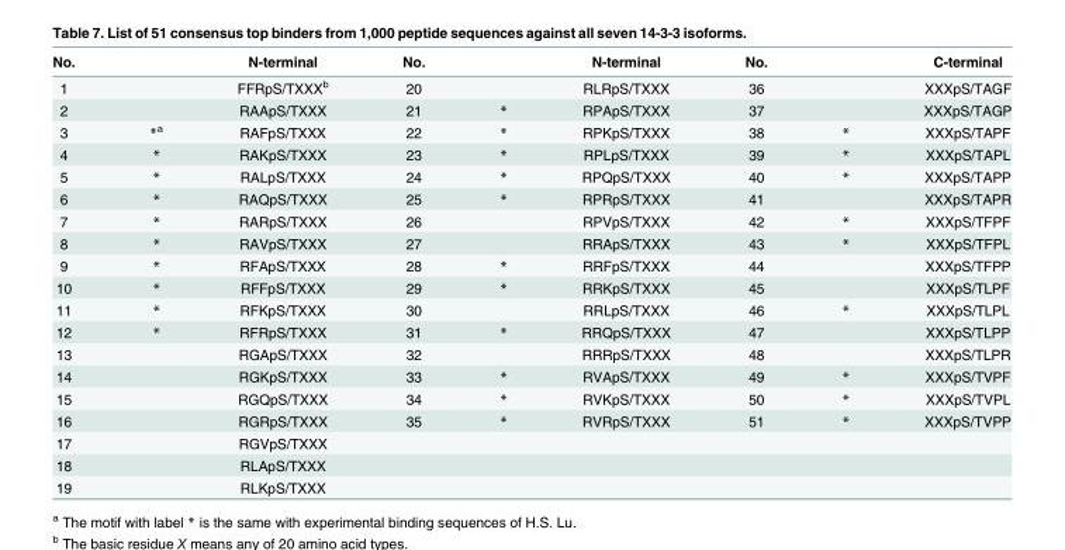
<table><thead><tr><td>No.</td><td></td><td>N-terminal</td><td>No.</td><td></td><td>N-terminal</td><td>No.</td><td></td><td>C-terminal</td></tr></thead><tbody><tr><td>1</td><td></td><td>FFRpS/TXXX<sup>b</sup></td><td>20</td><td></td><td>RLRpS/TXXX</td><td>36</td><td></td><td>XXXpS/TAGF</td></tr><tr><td>2</td><td></td><td>RAApS/TXXX</td><td>21</td><td>*</td><td>RPApS/TXXX</td><td>37</td><td></td><td>XXXpS/TAGP</td></tr><tr><td>3</td><td>*<sup>a</sup></td><td>RAFpS/TXXX</td><td>22</td><td>*</td><td>RPKpS/TXXX</td><td>38</td><td>*</td><td>XXXpS/TAPF</td></tr><tr><td>4</td><td>*</td><td>RAKpS/TXXX</td><td>23</td><td>*</td><td>RPLpS/TXXX</td><td>39</td><td>*</td><td>XXXpS/TAPL</td></tr><tr><td>5</td><td>*</td><td>RALpS/TXXX</td><td>24</td><td>*</td><td>RPQpS/TXXX</td><td>40</td><td>*</td><td>XXXpS/TAPP</td></tr><tr><td>6</td><td>*</td><td>RAQpS/TXXX</td><td>25</td><td>*</td><td>RPRpS/TXXX</td><td>41</td><td></td><td>XXXpS/TAPR</td></tr><tr><td>7</td><td>*</td><td>RARpS/TXXX</td><td>26</td><td></td><td>RPVpS/TXXX</td><td>42</td><td>*</td><td>XXXpS/TFPF</td></tr><tr><td>8</td><td>*</td><td>RAVpS/TXXX</td><td>27</td><td></td><td>RRApS/TXXX</td><td>43</td><td>*</td><td>XXXpS/TFPL</td></tr><tr><td>9</td><td>*</td><td>RFApS/TXXX</td><td>28</td><td>*</td><td>RRFpS/TXXX</td><td>44</td><td></td><td>XXXpS/TFPP</td></tr><tr><td>10</td><td>*</td><td>RFFpS/TXXX</td><td>29</td><td>*</td><td>RRKpS/TXXX</td><td>45</td><td></td><td>XXXpS/TLPF</td></tr><tr><td>11</td><td>*</td><td>RFKpS/TXXX</td><td>30</td><td></td><td>RRLpS/TXXX</td><td>46</td><td>*</td><td>XXXpS/TLPL</td></tr><tr><td>12</td><td>*</td><td>RFRpS/TXXX</td><td>31</td><td>*</td><td>RRQpS/TXXX</td><td>47</td><td></td><td>XXXpS/TLPP</td></tr><tr><td>13</td><td></td><td>RGApS/TXXX</td><td>32</td><td></td><td>RRRpS/TXXX</td><td>48</td><td></td><td>XXXpS/TLPR</td></tr><tr><td>14</td><td></td><td>RGKpS/TXXX</td><td>33</td><td>*</td><td>RVApS/TXXX</td><td>49</td><td>*</td><td>XXXpS/TVPF</td></tr><tr><td>15</td><td></td><td>RGQpS/TXXX</td><td>34</td><td>*</td><td>RVKpS/TXXX</td><td>50</td><td>*</td><td>XXXpS/TVPL</td></tr><tr><td>16</td><td></td><td>RGRpS/TXXX</td><td>35</td><td>*</td><td>RVRpS/TXXX</td><td>51</td><td>*</td><td>XXXpS/TVPP</td></tr><tr><td>17</td><td></td><td>RGVpS/TXXX</td><td></td><td></td><td></td><td></td><td></td><td></td></tr><tr><td>18</td><td></td><td>RLApS/TXXX</td><td></td><td></td><td></td><td></td><td></td><td></td></tr><tr><td>19</td><td></td><td>RLKpS/TXXX</td><td></td><td></td><td></td><td></td><td></td><td></td></tr></tbody></table>